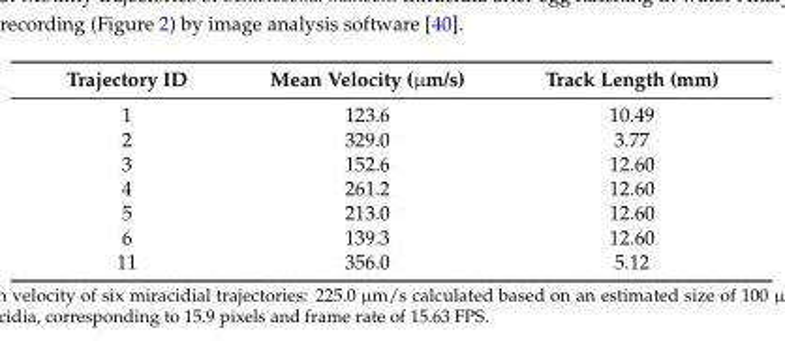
<table><thead><tr><td>Trajectory ID</td><td>Mean Velocity (µm/s)</td><td>Track Length (mm)</td></tr></thead><tbody><tr><td>1</td><td>123.6</td><td>10.49</td></tr><tr><td>2</td><td>329.0</td><td>3.77</td></tr><tr><td>3</td><td>152.6</td><td>12.60</td></tr><tr><td>4</td><td>261.2</td><td>12.60</td></tr><tr><td>5</td><td>213.0</td><td>12.60</td></tr><tr><td>6</td><td>139.3</td><td>12.60</td></tr><tr><td>11</td><td>356.0</td><td>5.12</td></tr></tbody></table>